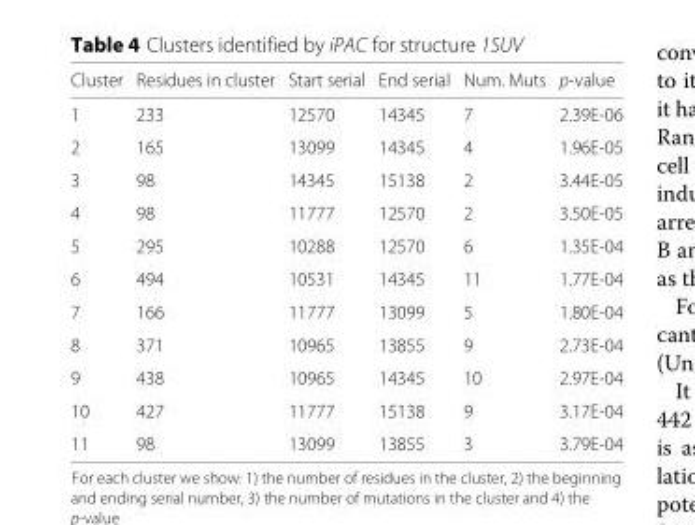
<table><thead><tr><td>Cluster</td><td>Residues in cluster</td><td>Start serial</td><td>End serial</td><td>Num. Muts</td><td>p-value</td></tr></thead><tbody><tr><td>1</td><td>233</td><td>12570</td><td>14345</td><td>7</td><td>2.39E-06</td></tr><tr><td>2</td><td>165</td><td>13099</td><td>14345</td><td>4</td><td>1.96E-05</td></tr><tr><td>3</td><td>98</td><td>14345</td><td>15138</td><td>2</td><td>3.44E-05</td></tr><tr><td>4</td><td>98</td><td>11777</td><td>12570</td><td>2</td><td>3.50E-05</td></tr><tr><td>5</td><td>295</td><td>10288</td><td>12570</td><td>6</td><td>1.35E-04</td></tr><tr><td>6</td><td>494</td><td>10531</td><td>14345</td><td>11</td><td>1.77E-04</td></tr><tr><td>7</td><td>166</td><td>11777</td><td>13099</td><td>5</td><td>1.80E-04</td></tr><tr><td>8</td><td>371</td><td>10965</td><td>13855</td><td>9</td><td>2.73E-04</td></tr><tr><td>9</td><td>438</td><td>10965</td><td>14345</td><td>10</td><td>2.97E-04</td></tr><tr><td>10</td><td>427</td><td>11777</td><td>15138</td><td>9</td><td>3.17E-04</td></tr><tr><td>11</td><td>98</td><td>13099</td><td>13855</td><td>3</td><td>3.79E-04</td></tr></tbody></table>